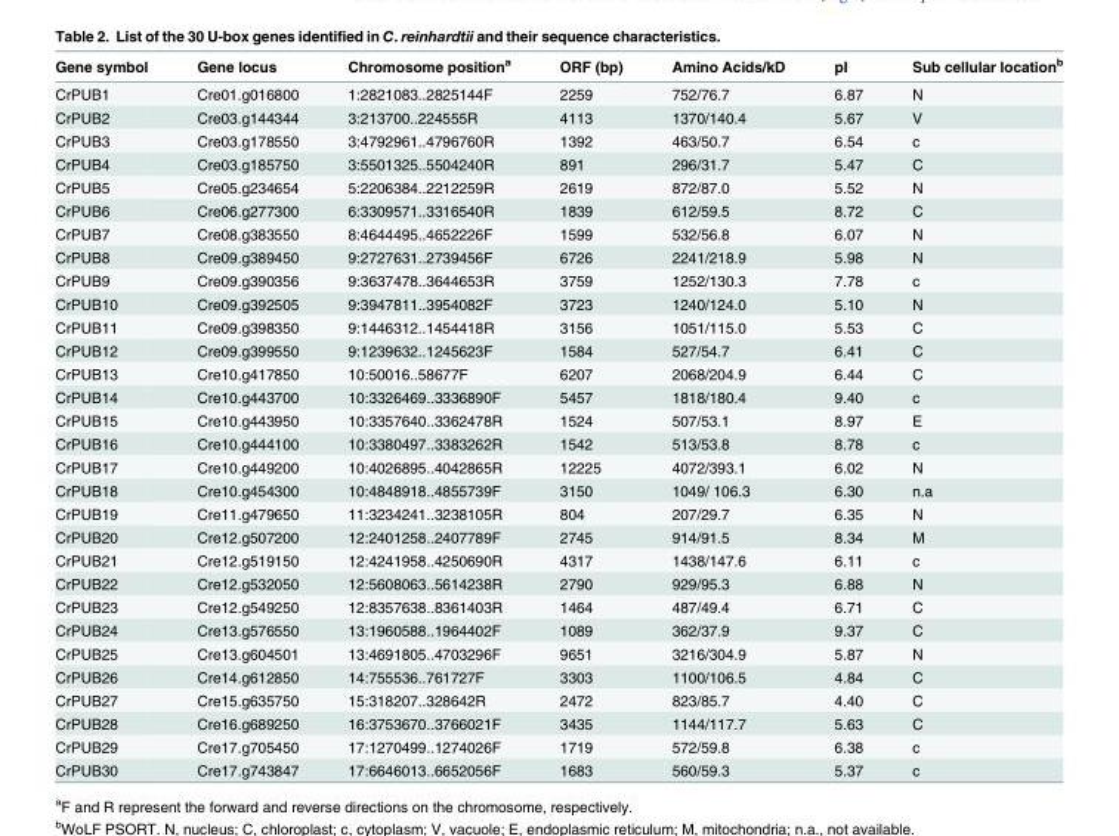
<table><thead><tr><td>Gene symbol</td><td>Gene locus</td><td>Chromosome position<sup>a</sup></td><td>ORF (bp)</td><td>Amino Acids/kD</td><td>pI</td><td>Sub cellular location<sup>b</sup></td></tr></thead><tbody><tr><td>CrPUB1</td><td>Cre01.g016800</td><td>1:2821083..2825144F</td><td>2259</td><td>752/76.7</td><td>6.87</td><td>N</td></tr><tr><td>CrPUB2</td><td>Cre03.g144344</td><td>3:213700..224555R</td><td>4113</td><td>1370/140.4</td><td>5.67</td><td>V</td></tr><tr><td>CrPUB3</td><td>Cre03.g178550</td><td>3:4792961..4796760R</td><td>1392</td><td>463/50.7</td><td>6.54</td><td>c</td></tr><tr><td>CrPUB4</td><td>Cre03.g185750</td><td>3:5501325..5504240R</td><td>891</td><td>296/31.7</td><td>5.47</td><td>C</td></tr><tr><td>CrPUB5</td><td>Cre05.g234654</td><td>5:2206384..2212259R</td><td>2619</td><td>872/87.0</td><td>5.52</td><td>N</td></tr><tr><td>CrPUB6</td><td>Cre06.g277300</td><td>6:3309571..3316540R</td><td>1839</td><td>612/59.5</td><td>8.72</td><td>C</td></tr><tr><td>CrPUB7</td><td>Cre08.g383550</td><td>8:4644495..4652226F</td><td>1599</td><td>532/56.8</td><td>6.07</td><td>N</td></tr><tr><td>CrPUB8</td><td>Cre09.g389450</td><td>9:2727631..2739456F</td><td>6726</td><td>2241/218.9</td><td>5.98</td><td>N</td></tr><tr><td>CrPUB9</td><td>Cre09.g390356</td><td>9:3637478..3644653R</td><td>3759</td><td>1252/130.3</td><td>7.78</td><td>c</td></tr><tr><td>CrPUB10</td><td>Cre09.g392505</td><td>9:3947811..3954082F</td><td>3723</td><td>1240/124.0</td><td>5.10</td><td>N</td></tr><tr><td>CrPUB11</td><td>Cre09.g398350</td><td>9:1446312..1454418R</td><td>3156</td><td>1051/115.0</td><td>5.53</td><td>C</td></tr><tr><td>CrPUB12</td><td>Cre09.g399550</td><td>9:1239632..1245623F</td><td>1584</td><td>527/54.7</td><td>6.41</td><td>C</td></tr><tr><td>CrPUB13</td><td>Cre10.g417850</td><td>10:50016..58677F</td><td>6207</td><td>2068/204.9</td><td>6.44</td><td>C</td></tr><tr><td>CrPUB14</td><td>Cre10.g443700</td><td>10:3326469..3336890F</td><td>5457</td><td>1818/180.4</td><td>9.40</td><td>c</td></tr><tr><td>CrPUB15</td><td>Cre10.g443950</td><td>10:3357640..3362478R</td><td>1524</td><td>507/53.1</td><td>8.97</td><td>E</td></tr><tr><td>CrPUB16</td><td>Cre10.g444100</td><td>10:3380497..3383262R</td><td>1542</td><td>513/53.8</td><td>8.78</td><td>c</td></tr><tr><td>CrPUB17</td><td>Cre10.g449200</td><td>10:4026895..4042865R</td><td>12225</td><td>4072/393.1</td><td>6.02</td><td>N</td></tr><tr><td>CrPUB18</td><td>Cre10.g454300</td><td>10:4848918..4855739F</td><td>3150</td><td>1049/ 106.3</td><td>6.30</td><td>n.a</td></tr><tr><td>CrPUB19</td><td>Cre11.g479650</td><td>11:3234241..3238105R</td><td>804</td><td>207/29.7</td><td>6.35</td><td>N</td></tr><tr><td>CrPUB20</td><td>Cre12.g507200</td><td>12:2401258..2407789F</td><td>2745</td><td>914/91.5</td><td>8.34</td><td>M</td></tr><tr><td>CrPUB21</td><td>Cre12.g519150</td><td>12:4241958..4250690R</td><td>4317</td><td>1438/147.6</td><td>6.11</td><td>c</td></tr><tr><td>CrPUB22</td><td>Cre12.g532050</td><td>12:5608063..5614238R</td><td>2790</td><td>929/95.3</td><td>6.88</td><td>N</td></tr><tr><td>CrPUB23</td><td>Cre12.g549250</td><td>12:8357638..8361403R</td><td>1464</td><td>487/49.4</td><td>6.71</td><td>C</td></tr><tr><td>CrPUB24</td><td>Cre13.g576550</td><td>13:1960588..1964402F</td><td>1089</td><td>362/37.9</td><td>9.37</td><td>C</td></tr><tr><td>CrPUB25</td><td>Cre13.g604501</td><td>13:4691805..4703296F</td><td>9651</td><td>3216/304.9</td><td>5.87</td><td>N</td></tr><tr><td>CrPUB26</td><td>Cre14.g612850</td><td>14:755536..761727F</td><td>3303</td><td>1100/106.5</td><td>4.84</td><td>C</td></tr><tr><td>CrPUB27</td><td>Cre15.g635750</td><td>15:318207..328642R</td><td>2472</td><td>823/85.7</td><td>4.40</td><td>C</td></tr><tr><td>CrPUB28</td><td>Cre16.g689250</td><td>16:3753670..3766021F</td><td>3435</td><td>1144/117.7</td><td>5.63</td><td>C</td></tr><tr><td>CrPUB29</td><td>Cre17.g705450</td><td>17:1270499..1274026F</td><td>1719</td><td>572/59.8</td><td>6.38</td><td>c</td></tr><tr><td>CrPUB30</td><td>Cre17.g743847</td><td>17:6646013..6652056F</td><td>1683</td><td>560/59.3</td><td>5.37</td><td>c</td></tr></tbody></table>